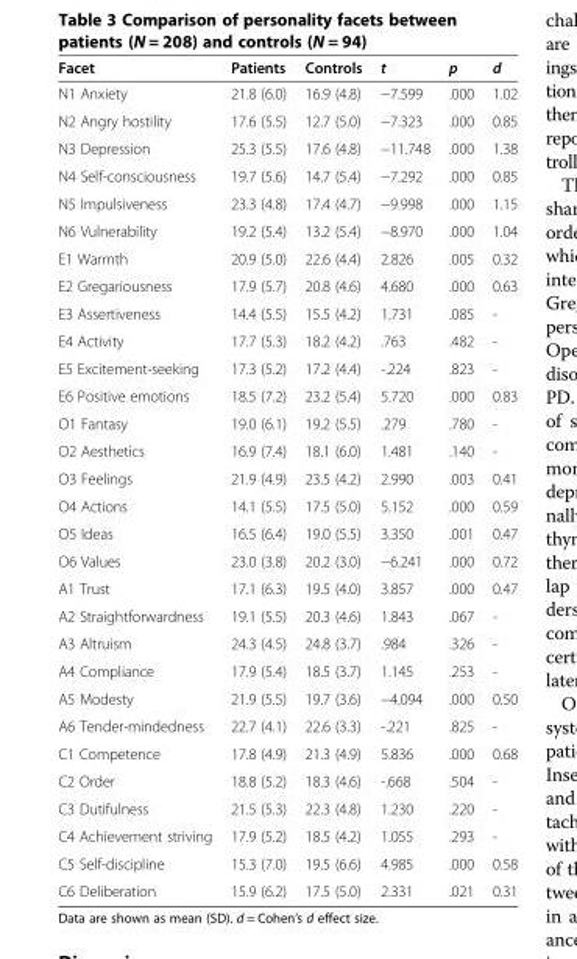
<table><thead><tr><td>Facet</td><td>Patients</td><td>Controls</td><td>t</td><td>p</td><td>d</td></tr></thead><tbody><tr><td>N1 Anxiety</td><td>21.8 (6.0)</td><td>16.9 (4.8)</td><td>−7.599</td><td>.000</td><td>1.02</td></tr><tr><td>N2 Angry hostility</td><td>17.6 (5.5)</td><td>12.7 (5.0)</td><td>−7.323</td><td>.000</td><td>0.85</td></tr><tr><td>N3 Depression</td><td>25.3 (5.5)</td><td>17.6 (4.8)</td><td>−11.748</td><td>.000</td><td>1.38</td></tr><tr><td>N4 Self-consciousness</td><td>19.7 (5.6)</td><td>14.7 (5.4)</td><td>−7.292</td><td>.000</td><td>0.85</td></tr><tr><td>N5 Impulsiveness</td><td>23.3 (4.8)</td><td>17.4 (4.7)</td><td>−9.998</td><td>.000</td><td>1.15</td></tr><tr><td>N6 Vulnerability</td><td>19.2 (5.4)</td><td>13.2 (5.4)</td><td>−8.970</td><td>.000</td><td>1.04</td></tr><tr><td>E1 Warmth</td><td>20.9 (5.0)</td><td>22.6 (4.4)</td><td>2.826</td><td>.005</td><td>0.32</td></tr><tr><td>E2 Gregariousness</td><td>17.9 (5.7)</td><td>20.8 (4.6)</td><td>4.680</td><td>.000</td><td>0.63</td></tr><tr><td>E3 Assertiveness</td><td>14.4 (5.5)</td><td>15.5 (4.2)</td><td>1.731</td><td>.085</td><td>-</td></tr><tr><td>E4 Activity</td><td>17.7 (5.3)</td><td>18.2 (4.2)</td><td>.763</td><td>.482</td><td>-</td></tr><tr><td>E5 Excitement-seeking</td><td>17.3 (5.2)</td><td>17.2 (4.4)</td><td>-.224</td><td>.823</td><td>-</td></tr><tr><td>E6 Positive emotions</td><td>18.5 (7.2)</td><td>23.2 (5.4)</td><td>5.720</td><td>.000</td><td>0.83</td></tr><tr><td>O1 Fantasy</td><td>19.0 (6.1)</td><td>19.2 (5.5)</td><td>.279</td><td>.780</td><td>-</td></tr><tr><td>O2 Aesthetics</td><td>16.9 (7.4)</td><td>18.1 (6.0)</td><td>1.481</td><td>.140</td><td>-</td></tr><tr><td>O3 Feelings</td><td>21.9 (4.9)</td><td>23.5 (4.2)</td><td>2.990</td><td>.003</td><td>0.41</td></tr><tr><td>O4 Actions</td><td>14.1 (5.5)</td><td>17.5 (5.0)</td><td>5.152</td><td>.000</td><td>0.59</td></tr><tr><td>O5 Ideas</td><td>16.5 (6.4)</td><td>19.0 (5.5)</td><td>3.350</td><td>.001</td><td>0.47</td></tr><tr><td>O6 Values</td><td>23.0 (3.8)</td><td>20.2 (3.0)</td><td>−6.241</td><td>.000</td><td>0.72</td></tr><tr><td>A1 Trust</td><td>17.1 (6.3)</td><td>19.5 (4.0)</td><td>3.857</td><td>.000</td><td>0.47</td></tr><tr><td>A2 Straightforwardness</td><td>19.1 (5.5)</td><td>20.3 (4.6)</td><td>1.843</td><td>.067</td><td>-</td></tr><tr><td>A3 Altruism</td><td>24.3 (4.5)</td><td>24.8 (3.7)</td><td>.984</td><td>.326</td><td>-</td></tr><tr><td>A4 Compliance</td><td>17.9 (5.4)</td><td>18.5 (3.7)</td><td>1.145</td><td>.253</td><td>-</td></tr><tr><td>A5 Modesty</td><td>21.9 (5.5)</td><td>19.7 (3.6)</td><td>−4.094</td><td>.000</td><td>0.50</td></tr><tr><td>A6 Tender-mindedness</td><td>22.7 (4.1)</td><td>22.6 (3.3)</td><td>-.221</td><td>.825</td><td>-</td></tr><tr><td>C1 Competence</td><td>17.8 (4.9)</td><td>21.3 (4.9)</td><td>5.836</td><td>.000</td><td>0.68</td></tr><tr><td>C2 Order</td><td>18.8 (5.2)</td><td>18.3 (4.6)</td><td>-.668</td><td>.504</td><td>-</td></tr><tr><td>C3 Dutifulness</td><td>21.5 (5.3)</td><td>22.3 (4.8)</td><td>1.230</td><td>.220</td><td>-</td></tr><tr><td>C4 Achievement striving</td><td>17.9 (5.2)</td><td>18.5 (4.2)</td><td>1.055</td><td>.293</td><td>-</td></tr><tr><td>C5 Self-discipline</td><td>15.3 (7.0)</td><td>19.5 (6.6)</td><td>4.985</td><td>.000</td><td>0.58</td></tr><tr><td>C6 Deliberation</td><td>15.9 (6.2)</td><td>17.5 (5.0)</td><td>2.331</td><td>.021</td><td>0.31</td></tr></tbody></table>